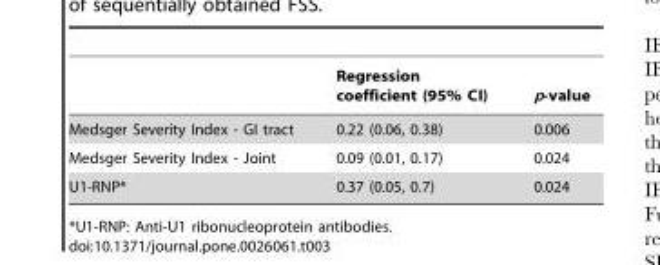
<table><thead><tr><td></td><td>Regression coefficient (95% CI)</td><td>p-value</td></tr></thead><tbody><tr><td>Medsger Severity Index - GI tract</td><td>0.22 (0.06, 0.38)</td><td>0.006</td></tr><tr><td>Medsger Severity Index - Joint</td><td>0.09 (0.01, 0.17)</td><td>0.024</td></tr><tr><td>U1-RNP*</td><td>0.37 (0.05, 0.7)</td><td>0.024</td></tr></tbody></table>